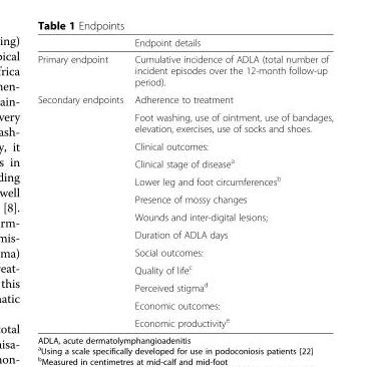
<table><thead><tr><td></td><td>Endpoint details</td></tr></thead><tbody><tr><td>Primary endpoint</td><td>Cumulative incidence of ADLA (total number of incident episodes over the 12-month follow-up period).</td></tr><tr><td rowspan="13">Secondary endpoints</td><td>Adherence to treatment</td></tr><tr><td>Foot washing, use of ointment, use of bandages, elevation, exercises, use of socks and shoes.</td></tr><tr><td>Clinical outcomes:</td></tr><tr><td>Clinical stage of disease<sup>a</sup></td></tr><tr><td>Lower leg and foot circumferences<sup>b</sup></td></tr><tr><td>Presence of mossy changes</td></tr><tr><td>Wounds and inter-digital lesions;</td></tr><tr><td>Duration of ADLA days</td></tr><tr><td>Social outcomes:</td></tr><tr><td>Quality of life<sup>c</sup></td></tr><tr><td>Perceived stigma<sup>d</sup></td></tr><tr><td>Economic outcomes:</td></tr><tr><td>Economic productivity<sup>e</sup></td></tr></tbody></table>